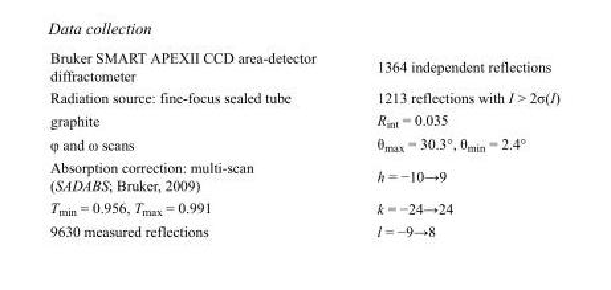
<table><tbody><tr><td>Bruker SMART APEXII CCD area-detector diffractometer</td><td>1364 independent reflections</td></tr><tr><td>Radiation source: fine-focus sealed tube</td><td>1213 reflections with I &gt; 2σ(I)</td></tr><tr><td>graphite</td><td>R<sub>int</sub> = 0.035</td></tr><tr><td>φ and ω scans</td><td>θ<sub>max</sub> = 30.3°, θ<sub>min</sub> = 2.4°</td></tr><tr><td>Absorption correction: multi-scan (SADABS; Bruker, 2009)</td><td>h = −10→9</td></tr><tr><td>T<sub>min</sub> = 0.956, T<sub>max</sub> = 0.991</td><td>k = −24→24</td></tr><tr><td>9630 measured reflections</td><td>l = −9→8</td></tr></tbody></table>